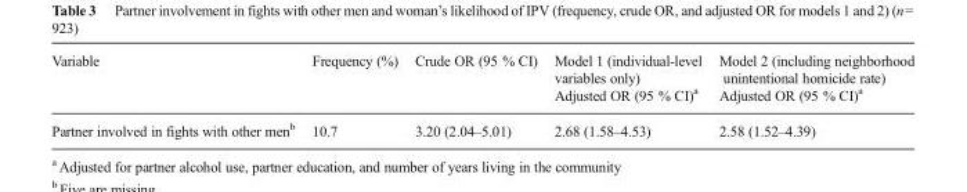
<table><thead><tr><td>Variable</td><td>Frequency (%)</td><td>Crude OR (95 % CI)</td><td>Model 1 (individual-level variables only) Adjusted OR (95 % CI)<sup>a</sup></td><td>Model 2 (including neighborhood unintentional homicide rate) Adjusted OR (95 % CI)<sup>a</sup></td></tr></thead><tbody><tr><td>Partner involved in fights with other men<sup>b</sup></td><td>10.7</td><td>3.20 (2.04–5.01)</td><td>2.68 (1.58–4.53)</td><td>2.58 (1.52–4.39)</td></tr></tbody></table>